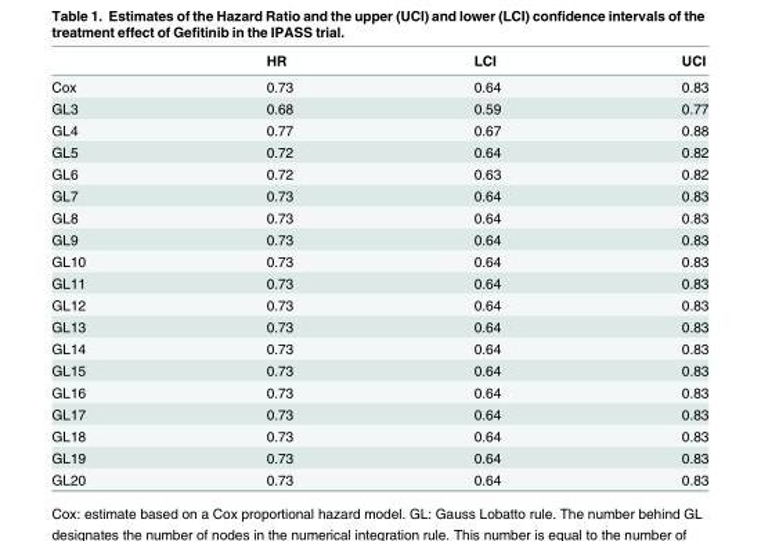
<table><thead><tr><td></td><td>HR</td><td>LCI</td><td>UCI</td></tr></thead><tbody><tr><td>Cox</td><td>0.73</td><td>0.64</td><td>0.83</td></tr><tr><td>GL3</td><td>0.68</td><td>0.59</td><td>0.77</td></tr><tr><td>GL4</td><td>0.77</td><td>0.67</td><td>0.88</td></tr><tr><td>GL5</td><td>0.72</td><td>0.64</td><td>0.82</td></tr><tr><td>GL6</td><td>0.72</td><td>0.63</td><td>0.82</td></tr><tr><td>GL7</td><td>0.73</td><td>0.64</td><td>0.83</td></tr><tr><td>GL8</td><td>0.73</td><td>0.64</td><td>0.83</td></tr><tr><td>GL9</td><td>0.73</td><td>0.64</td><td>0.83</td></tr><tr><td>GL10</td><td>0.73</td><td>0.64</td><td>0.83</td></tr><tr><td>GL11</td><td>0.73</td><td>0.64</td><td>0.83</td></tr><tr><td>GL12</td><td>0.73</td><td>0.64</td><td>0.83</td></tr><tr><td>GL13</td><td>0.73</td><td>0.64</td><td>0.83</td></tr><tr><td>GL14</td><td>0.73</td><td>0.64</td><td>0.83</td></tr><tr><td>GL15</td><td>0.73</td><td>0.64</td><td>0.83</td></tr><tr><td>GL16</td><td>0.73</td><td>0.64</td><td>0.83</td></tr><tr><td>GL17</td><td>0.73</td><td>0.64</td><td>0.83</td></tr><tr><td>GL18</td><td>0.73</td><td>0.64</td><td>0.83</td></tr><tr><td>GL19</td><td>0.73</td><td>0.64</td><td>0.83</td></tr><tr><td>GL20</td><td>0.73</td><td>0.64</td><td>0.83</td></tr></tbody></table>